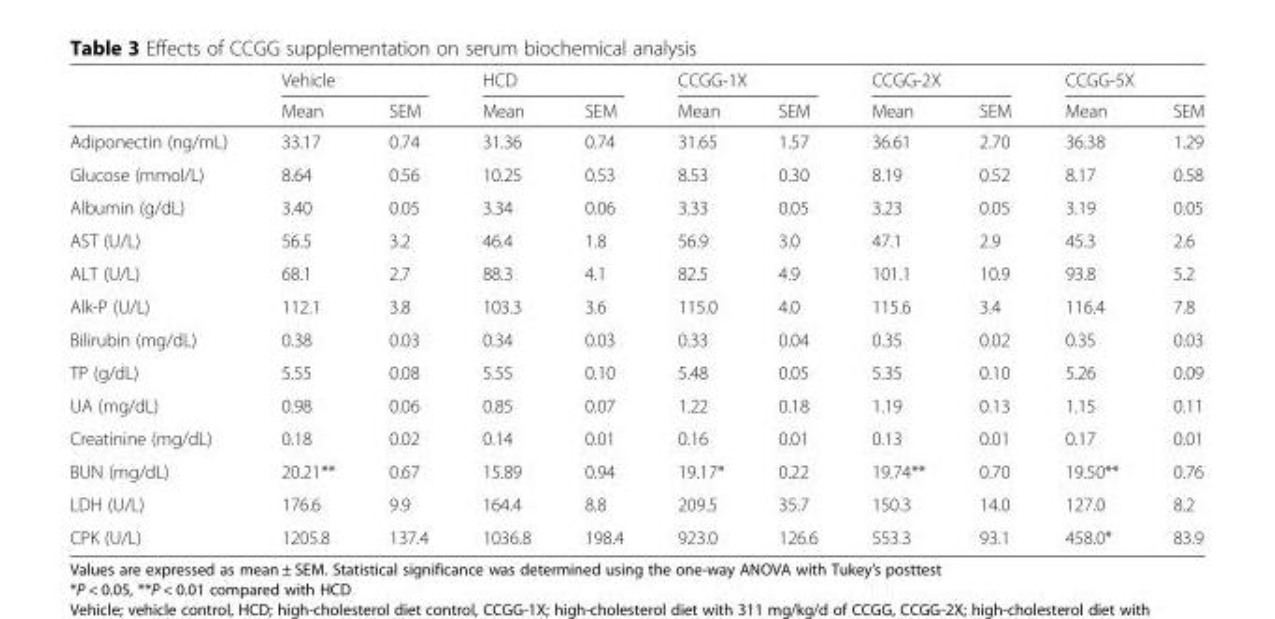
<table><thead><tr><td rowspan="2"></td><td colspan="2">Vehicle</td><td colspan="2">HCD</td><td colspan="2">CCGG-1X</td><td colspan="2">CCGG-2X</td><td colspan="2">CCGG-5X</td></tr><tr><td>Mean</td><td>SEM</td><td>Mean</td><td>SEM</td><td>Mean</td><td>SEM</td><td>Mean</td><td>SEM</td><td>Mean</td><td>SEM</td></tr></thead><tbody><tr><td>Adiponectin (ng/mL)</td><td>33.17</td><td>0.74</td><td>31.36</td><td>0.74</td><td>31.65</td><td>1.57</td><td>36.61</td><td>2.70</td><td>36.38</td><td>1.29</td></tr><tr><td>Glucose (mmol/L)</td><td>8.64</td><td>0.56</td><td>10.25</td><td>0.53</td><td>8.53</td><td>0.30</td><td>8.19</td><td>0.52</td><td>8.17</td><td>0.58</td></tr><tr><td>Albumin (g/dL)</td><td>3.40</td><td>0.05</td><td>3.34</td><td>0.06</td><td>3.33</td><td>0.05</td><td>3.23</td><td>0.05</td><td>3.19</td><td>0.05</td></tr><tr><td>AST (U/L)</td><td>56.5</td><td>3.2</td><td>46.4</td><td>1.8</td><td>56.9</td><td>3.0</td><td>47.1</td><td>2.9</td><td>45.3</td><td>2.6</td></tr><tr><td>ALT (U/L)</td><td>68.1</td><td>2.7</td><td>88.3</td><td>4.1</td><td>82.5</td><td>4.9</td><td>101.1</td><td>10.9</td><td>93.8</td><td>5.2</td></tr><tr><td>Alk-P (U/L)</td><td>112.1</td><td>3.8</td><td>103.3</td><td>3.6</td><td>115.0</td><td>4.0</td><td>115.6</td><td>3.4</td><td>116.4</td><td>7.8</td></tr><tr><td>Bilirubin (mg/dL)</td><td>0.38</td><td>0.03</td><td>0.34</td><td>0.03</td><td>0.33</td><td>0.04</td><td>0.35</td><td>0.02</td><td>0.35</td><td>0.03</td></tr><tr><td>TP (g/dL)</td><td>5.55</td><td>0.08</td><td>5.55</td><td>0.10</td><td>5.48</td><td>0.05</td><td>5.35</td><td>0.10</td><td>5.26</td><td>0.09</td></tr><tr><td>UA (mg/dL)</td><td>0.98</td><td>0.06</td><td>0.85</td><td>0.07</td><td>1.22</td><td>0.18</td><td>1.19</td><td>0.13</td><td>1.15</td><td>0.11</td></tr><tr><td>Creatinine (mg/dL)</td><td>0.18</td><td>0.02</td><td>0.14</td><td>0.01</td><td>0.16</td><td>0.01</td><td>0.13</td><td>0.01</td><td>0.17</td><td>0.01</td></tr><tr><td>BUN (mg/dL)</td><td>20.21**</td><td>0.67</td><td>15.89</td><td>0.94</td><td>19.17*</td><td>0.22</td><td>19.74**</td><td>0.70</td><td>19.50**</td><td>0.76</td></tr><tr><td>LDH (U/L)</td><td>176.6</td><td>9.9</td><td>164.4</td><td>8.8</td><td>209.5</td><td>35.7</td><td>150.3</td><td>14.0</td><td>127.0</td><td>8.2</td></tr><tr><td>CPK (U/L)</td><td>1205.8</td><td>137.4</td><td>1036.8</td><td>198.4</td><td>923.0</td><td>126.6</td><td>553.3</td><td>93.1</td><td>458.0*</td><td>83.9</td></tr></tbody></table>